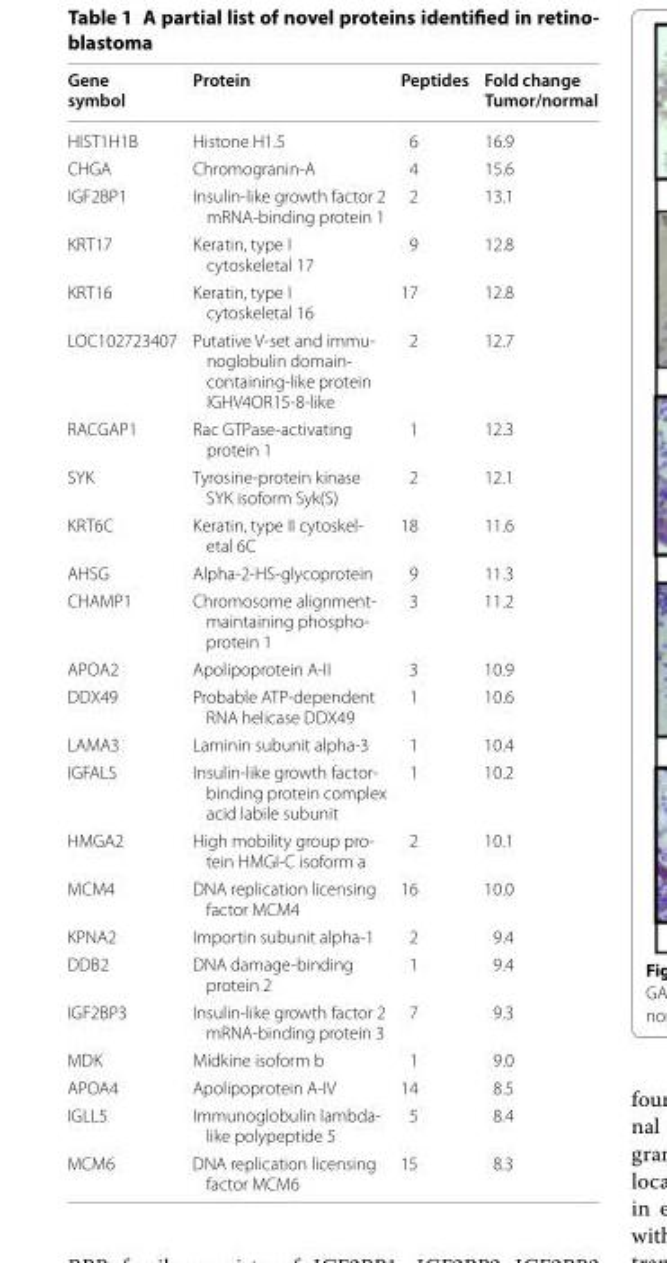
<table><thead><tr><td>Gene symbol</td><td>Protein</td><td>Peptides</td><td>Fold change Tumor/normal</td></tr></thead><tbody><tr><td>HIST1H1B</td><td>Histone H1.5</td><td>6</td><td>16.9</td></tr><tr><td>CHGA</td><td>Chromogranin-A</td><td>4</td><td>15.6</td></tr><tr><td>IGF2BP1</td><td>Insulin-like growth factor 2 mRNA-binding protein 1</td><td>2</td><td>13.1</td></tr><tr><td>KRT17</td><td>Keratin, type I cytoskeletal 17</td><td>9</td><td>12.8</td></tr><tr><td>KRT16</td><td>Keratin, type I cytoskeletal 16</td><td>17</td><td>12.8</td></tr><tr><td>LOC102723407</td><td>Putative V-set and immu- noglobulin domain- containing-like protein IGHV4OR15-8-like</td><td>2</td><td>12.7</td></tr><tr><td>RACGAP1</td><td>Rac GTPase-activating protein 1</td><td>1</td><td>12.3</td></tr><tr><td>SYK</td><td>Tyrosine-protein kinase SYK isoform Syk(S)</td><td>2</td><td>12.1</td></tr><tr><td>KRT6C</td><td>Keratin, type II cytoskel- etal 6C</td><td>18</td><td>11.6</td></tr><tr><td>AHSG</td><td>Alpha-2-HS-glycoprotein</td><td>9</td><td>11.3</td></tr><tr><td>CHAMP1</td><td>Chromosome alignment- maintaining phospho- protein 1</td><td>3</td><td>11.2</td></tr><tr><td>APOA2</td><td>Apolipoprotein A-II</td><td>3</td><td>10.9</td></tr><tr><td>DDX49</td><td>Probable ATP-dependent RNA helicase DDX49</td><td>1</td><td>10.6</td></tr><tr><td>LAMA3</td><td>Laminin subunit alpha-3</td><td>1</td><td>10.4</td></tr><tr><td>IGFALS</td><td>Insulin-like growth factor- binding protein complex acid labile subunit</td><td>1</td><td>10.2</td></tr><tr><td>HMGA2</td><td>High mobility group pro- tein HMGI-C isoform a</td><td>2</td><td>10.1</td></tr><tr><td>MCM4</td><td>DNA replication licensing factor MCM4</td><td>16</td><td>10.0</td></tr><tr><td>KPNA2</td><td>Importin subunit alpha-1</td><td>2</td><td>9.4</td></tr><tr><td>DDB2</td><td>DNA damage-binding protein 2</td><td>1</td><td>9.4</td></tr><tr><td>IGF2BP3</td><td>Insulin-like growth factor 2 mRNA-binding protein 3</td><td>7</td><td>9.3</td></tr><tr><td>MDK</td><td>Midkine isoform b</td><td>1</td><td>9.0</td></tr><tr><td>APOA4</td><td>Apolipoprotein A-IV</td><td>14</td><td>8.5</td></tr><tr><td>IGLL5</td><td>Immunoglobulin lambda- like polypeptide 5</td><td>5</td><td>8.4</td></tr><tr><td>MCM6</td><td>DNA replication licensing factor MCM6</td><td>15</td><td>8.3</td></tr></tbody></table>